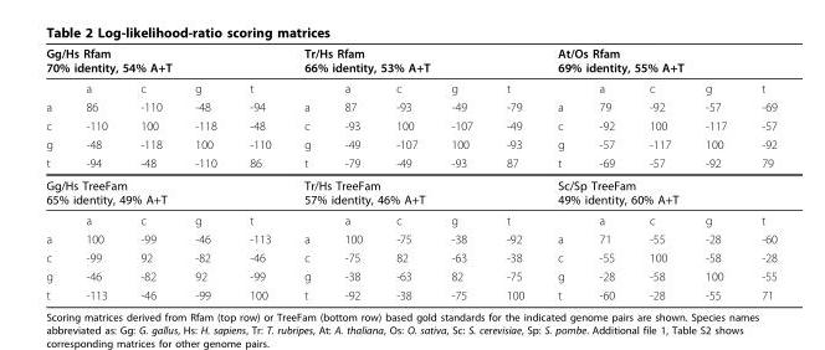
<table><tbody><tr><td colspan="5">Gg/Hs Rfam 70% identity, 54% A+T</td><td colspan="5">Tr/Hs Rfam 66% identity, 53% A+T</td><td colspan="5">At/Os Rfam 69% identity, 55% A+T</td></tr><tr><td></td><td>a</td><td>c</td><td>g</td><td>t</td><td></td><td>a</td><td>c</td><td>g</td><td>t</td><td></td><td>a</td><td>c</td><td>g</td><td>t</td></tr><tr><td>a</td><td>86</td><td>-110</td><td>-48</td><td>-94</td><td>a</td><td>87</td><td>-93</td><td>-49</td><td>-79</td><td>a</td><td>79</td><td>-92</td><td>-57</td><td>-69</td></tr><tr><td>c</td><td>-110</td><td>100</td><td>-118</td><td>-48</td><td>c</td><td>-93</td><td>100</td><td>-107</td><td>-49</td><td>c</td><td>-92</td><td>100</td><td>-117</td><td>-57</td></tr><tr><td>g</td><td>-48</td><td>-118</td><td>100</td><td>-110</td><td>g</td><td>-49</td><td>-107</td><td>100</td><td>-93</td><td>g</td><td>-57</td><td>-117</td><td>100</td><td>-92</td></tr><tr><td>t</td><td>-94</td><td>-48</td><td>-110</td><td>86</td><td>t</td><td>-79</td><td>-49</td><td>-93</td><td>87</td><td>t</td><td>-69</td><td>-57</td><td>-92</td><td>79</td></tr><tr><td colspan="5">Gg/Hs TreeFam 65% identity, 49% A+T</td><td colspan="5">Tr/Hs TreeFam 57% identity, 46% A+T</td><td colspan="5">Sc/Sp TreeFam 49% identity, 60% A+T</td></tr><tr><td></td><td>a</td><td>c</td><td>g</td><td>t</td><td></td><td>a</td><td>c</td><td>g</td><td>t</td><td></td><td>a</td><td>c</td><td>g</td><td>t</td></tr><tr><td>a</td><td>100</td><td>-99</td><td>-46</td><td>-113</td><td>a</td><td>100</td><td>-75</td><td>-38</td><td>-92</td><td>a</td><td>71</td><td>-55</td><td>-28</td><td>-60</td></tr><tr><td>c</td><td>-99</td><td>92</td><td>-82</td><td>-46</td><td>c</td><td>-75</td><td>82</td><td>-63</td><td>-38</td><td>c</td><td>-55</td><td>100</td><td>-58</td><td>-28</td></tr><tr><td>g</td><td>-46</td><td>-82</td><td>92</td><td>-99</td><td>g</td><td>-38</td><td>-63</td><td>82</td><td>-75</td><td>g</td><td>-28</td><td>-58</td><td>100</td><td>-55</td></tr><tr><td>t</td><td>-113</td><td>-46</td><td>-99</td><td>100</td><td>t</td><td>-92</td><td>-38</td><td>-75</td><td>100</td><td>t</td><td>-60</td><td>-28</td><td>-55</td><td>71</td></tr></tbody></table>